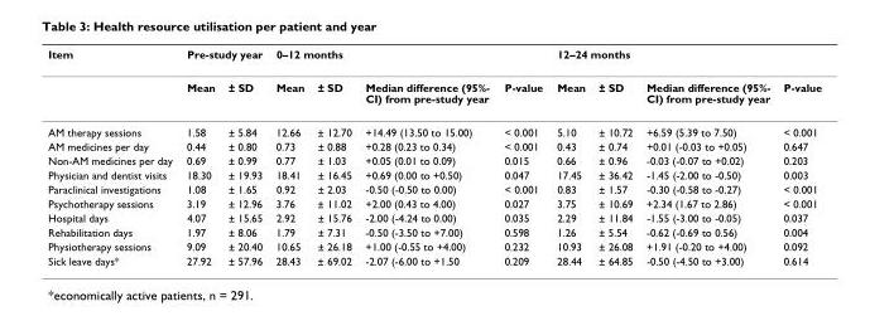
<table><thead><tr><td rowspan="2">Item</td><td colspan="2">Pre-study year</td><td colspan="4">0–12 months</td><td colspan="4">12–24 months</td></tr><tr><td>Mean</td><td>± SD</td><td>Mean</td><td>± SD</td><td>Median difference (95%- CI) from pre-study year</td><td>P-value</td><td>Mean</td><td>± SD</td><td>Median difference (95%- CI) from pre-study year</td><td>P-value</td></tr></thead><tbody><tr><td>AM therapy sessions</td><td>1.58</td><td>± 5.84</td><td>12.66</td><td>± 12.70</td><td>+14.49 (13.50 to 15.00)</td><td>&lt; 0.001</td><td>5.10</td><td>± 10.72</td><td>+6.59 (5.39 to 7.50)</td><td>&lt; 0.001</td></tr><tr><td>AM medicines per day</td><td>0.44</td><td>± 0.80</td><td>0.73</td><td>± 0.88</td><td>+0.28 (0.23 to 0.34)</td><td>&lt; 0.001</td><td>0.43</td><td>± 0.74</td><td>+0.01 (-0.03 to +0.05)</td><td>0.647</td></tr><tr><td>Non-AM medicines per day</td><td>0.69</td><td>± 0.99</td><td>0.77</td><td>± 1.03</td><td>+0.05 (0.01 to 0.09)</td><td>0.015</td><td>0.66</td><td>± 0.96</td><td>-0.03 (-0.07 to +0.02)</td><td>0.203</td></tr><tr><td>Physician and dentist visits</td><td>18.30</td><td>± 19.93</td><td>18.41</td><td>± 16.45</td><td>+0.69 (0.00 to +0.50)</td><td>0.047</td><td>17.45</td><td>± 36.42</td><td>-1.45 (-2.00 to -0.50)</td><td>0.003</td></tr><tr><td>Paraclinical investigations</td><td>1.08</td><td>± 1.65</td><td>0.92</td><td>± 2.03</td><td>-0.50 (-0.50 to 0.00)</td><td>&lt; 0.001</td><td>0.83</td><td>± 1.57</td><td>-0.30 (-0.58 to -0.27)</td><td>&lt; 0.001</td></tr><tr><td>Psychotherapy sessions</td><td>3.19</td><td>± 12.96</td><td>3.76</td><td>± 11.02</td><td>+2.00 (0.43 to 4.00)</td><td>0.027</td><td>3.75</td><td>± 10.69</td><td>+2.34 (1.67 to 2.86)</td><td>&lt; 0.001</td></tr><tr><td>Hospital days</td><td>4.07</td><td>± 15.65</td><td>2.92</td><td>± 15.76</td><td>-2.00 (-4.24 to 0.00)</td><td>0.035</td><td>2.29</td><td>± 11.84</td><td>-1.55 (-3.00 to -0.05)</td><td>0.037</td></tr><tr><td>Rehabilitation days</td><td>1.97</td><td>± 8.06</td><td>1.79</td><td>± 7.31</td><td>-0.50 (-3.50 to +7.00)</td><td>0.598</td><td>1.26</td><td>± 5.54</td><td>-0.62 (-0.69 to 0.56)</td><td>0.004</td></tr><tr><td>Physiotherapy sessions</td><td>9.09</td><td>± 20.40</td><td>10.65</td><td>± 26.18</td><td>+1.00 (-0.55 to +4.00)</td><td>0.232</td><td>10.93</td><td>± 26.08</td><td>+1.91 (-0.20 to +4.00)</td><td>0.092</td></tr><tr><td>Sick leave days*</td><td>27.92</td><td>± 57.96</td><td>28.43</td><td>± 69.02</td><td>-2.07 (-6.00 to +1.50</td><td>0.209</td><td>28.44</td><td>± 64.85</td><td>-0.50 (-4.50 to +3.00)</td><td>0.614</td></tr></tbody></table>